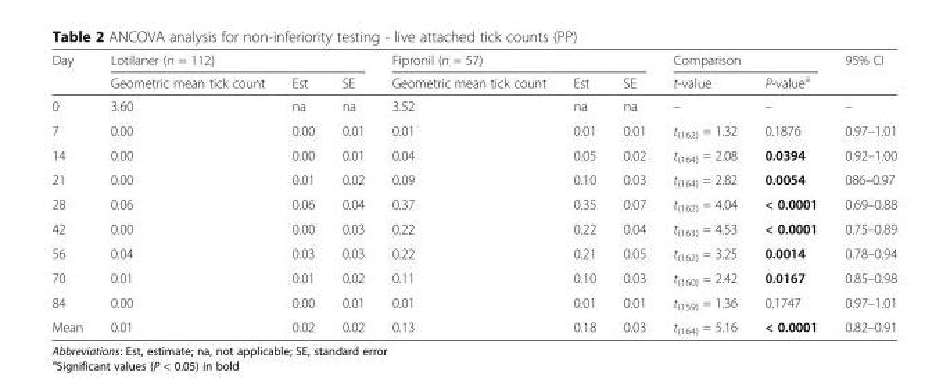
<table><thead><tr><td rowspan="2">Day</td><td colspan="3">Lotilaner (n = 112)</td><td colspan="3">Fipronil (n = 57)</td><td colspan="2">Comparison</td><td rowspan="2">95% CI</td></tr><tr><td>Geometric mean tick count</td><td>Est</td><td>SE</td><td>Geometric mean tick count</td><td>Est</td><td>SE</td><td>t-value</td><td>P-value<sup>a</sup></td></tr></thead><tbody><tr><td>0</td><td>3.60</td><td>na</td><td>na</td><td>3.52</td><td>na</td><td>na</td><td>–</td><td>–</td><td>–</td></tr><tr><td>7</td><td>0.00</td><td>0.00</td><td>0.01</td><td>0.01</td><td>0.01</td><td>0.01</td><td>t<sub>(162)</sub> = 1.32</td><td>0.1876</td><td>0.97–1.01</td></tr><tr><td>14</td><td>0.00</td><td>0.00</td><td>0.01</td><td>0.04</td><td>0.05</td><td>0.02</td><td>t<sub>(164)</sub> = 2.08</td><td>0.0394</td><td>0.92–1.00</td></tr><tr><td>21</td><td>0.00</td><td>0.01</td><td>0.02</td><td>0.09</td><td>0.10</td><td>0.03</td><td>t<sub>(164)</sub> = 2.82</td><td>0.0054</td><td>086–0.97</td></tr><tr><td>28</td><td>0.06</td><td>0.06</td><td>0.04</td><td>0.37</td><td>0.35</td><td>0.07</td><td>t<sub>(162)</sub> = 4.04</td><td>&lt; 0.0001</td><td>0.69–0.88</td></tr><tr><td>42</td><td>0.00</td><td>0.00</td><td>0.03</td><td>0.22</td><td>0.22</td><td>0.04</td><td>t<sub>(163)</sub> = 4.53</td><td>&lt; 0.0001</td><td>0.75–0.89</td></tr><tr><td>56</td><td>0.04</td><td>0.03</td><td>0.03</td><td>0.22</td><td>0.21</td><td>0.05</td><td>t<sub>(162)</sub> = 3.25</td><td>0.0014</td><td>0.78–0.94</td></tr><tr><td>70</td><td>0.01</td><td>0.01</td><td>0.02</td><td>0.11</td><td>0.10</td><td>0.03</td><td>t<sub>(160)</sub> = 2.42</td><td>0.0167</td><td>0.85–0.98</td></tr><tr><td>84</td><td>0.00</td><td>0.00</td><td>0.01</td><td>0.01</td><td>0.01</td><td>0.01</td><td>t<sub>(159)</sub> = 1.36</td><td>0.1747</td><td>0.97–1.01</td></tr><tr><td>Mean</td><td>0.01</td><td>0.02</td><td>0.02</td><td>0.13</td><td>0.18</td><td>0.03</td><td>t<sub>(164)</sub> = 5.16</td><td>&lt; 0.0001</td><td>0.82–0.91</td></tr></tbody></table>